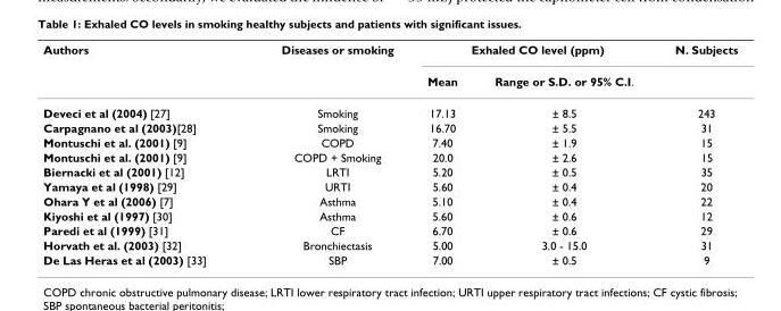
<table><thead><tr><td rowspan="2">Authors</td><td rowspan="2">Diseases or smoking</td><td colspan="2">Exhaled CO level (ppm)</td><td rowspan="2">N. Subjects</td></tr><tr><td>Mean</td><td>Range or S.D. or 95% C.I.</td></tr></thead><tbody><tr><td>Deveci et al (2004) [27]</td><td>Smoking</td><td>17.13</td><td>± 8.5</td><td>243</td></tr><tr><td>Carpagnano et al (2003)[28]</td><td>Smoking</td><td>16.70</td><td>± 5.5</td><td>31</td></tr><tr><td>Montuschi et al. (2001) [9]</td><td>COPD</td><td>7.40</td><td>± 1.9</td><td>15</td></tr><tr><td>Montuschi et al. (2001) [9]</td><td>COPD + Smoking</td><td>20.0</td><td>± 2.6</td><td>15</td></tr><tr><td>Biernacki et al (2001) [12]</td><td>LRTI</td><td>5.20</td><td>± 0.5</td><td>35</td></tr><tr><td>Yamaya et al (1998) [29]</td><td>URTI</td><td>5.60</td><td>± 0.4</td><td>20</td></tr><tr><td>Ohara Y et al (2006) [7]</td><td>Asthma</td><td>5.10</td><td>± 0.4</td><td>22</td></tr><tr><td>Kiyoshi et al (1997) [30]</td><td>Asthma</td><td>5.60</td><td>± 0.6</td><td>12</td></tr><tr><td>Paredi et al (1999) [31]</td><td>CF</td><td>6.70</td><td>± 0.6</td><td>29</td></tr><tr><td>Horvath et al. (2003) [32]</td><td>Bronchiectasis</td><td>5.00</td><td>3.0 - 15.0</td><td>31</td></tr><tr><td>De Las Heras et al (2003) [33]</td><td>SBP</td><td>7.00</td><td>± 0.5</td><td>9</td></tr></tbody></table>